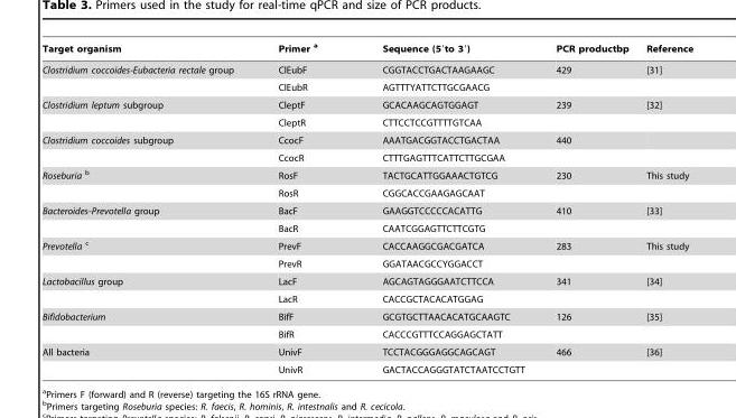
<table><thead><tr><td>Target organism</td><td>Primer a</td><td>Sequence (5′to 3′)</td><td>PCR productbp</td><td>Reference</td></tr></thead><tbody><tr><td rowspan="2">Clostridium coccoides-Eubacteria rectale group</td><td>ClEubF</td><td>CGGTACCTGACTAAGAAGC</td><td>429</td><td>[31]</td></tr><tr><td>ClEubR</td><td>AGTTTYATTCTTGCGAACG</td><td></td><td></td></tr><tr><td rowspan="2">Clostridium leptum subgroup</td><td>CleptF</td><td>GCACAAGCAGTGGAGT</td><td>239</td><td>[32]</td></tr><tr><td>CleptR</td><td>CTTCCTCCGTTTTGTCAA</td><td></td><td></td></tr><tr><td rowspan="2">Clostridium coccoides subgroup</td><td>CcocF</td><td>AAATGACGGTACCTGACTAA</td><td>440</td><td></td></tr><tr><td>CcocR</td><td>CTTTGAGTTTCATTCTTGCGAA</td><td></td><td></td></tr><tr><td rowspan="2">Roseburia b</td><td>RosF</td><td>TACTGCATTGGAAACTGTCG</td><td>230</td><td>This study</td></tr><tr><td>RosR</td><td>CGGCACCGAAGAGCAAT</td><td></td><td></td></tr><tr><td rowspan="2">Bacteroides-Prevotella group</td><td>BacF</td><td>GAAGGTCCCCCACATTG</td><td>410</td><td>[33]</td></tr><tr><td>BacR</td><td>CAATCGGAGTTCTTCGTG</td><td></td><td></td></tr><tr><td rowspan="2">Prevotella c</td><td>PrevF</td><td>CACCAAGGCGACGATCA</td><td>283</td><td>This study</td></tr><tr><td>PrevR</td><td>GGATAACGCCYGGACCT</td><td></td><td></td></tr><tr><td rowspan="2">Lactobacillus group</td><td>LacF</td><td>AGCAGTAGGGAATCTTCCA</td><td>341</td><td>[34]</td></tr><tr><td>LacR</td><td>CACCGCTACACATGGAG</td><td></td><td></td></tr><tr><td rowspan="2">Bifidobacterium</td><td>BifF</td><td>GCGTGCTTAACACATGCAAGTC</td><td>126</td><td>[35]</td></tr><tr><td>BifR</td><td>CACCCGTTTCCAGGAGCTATT</td><td></td><td></td></tr><tr><td rowspan="2">All bacteria</td><td>UnivF</td><td>TCCTACGGGAGGCAGCAGT</td><td>466</td><td>[36]</td></tr><tr><td>UnivR</td><td>GACTACCAGGGTATCTAATCCTGTT</td><td></td><td></td></tr></tbody></table>